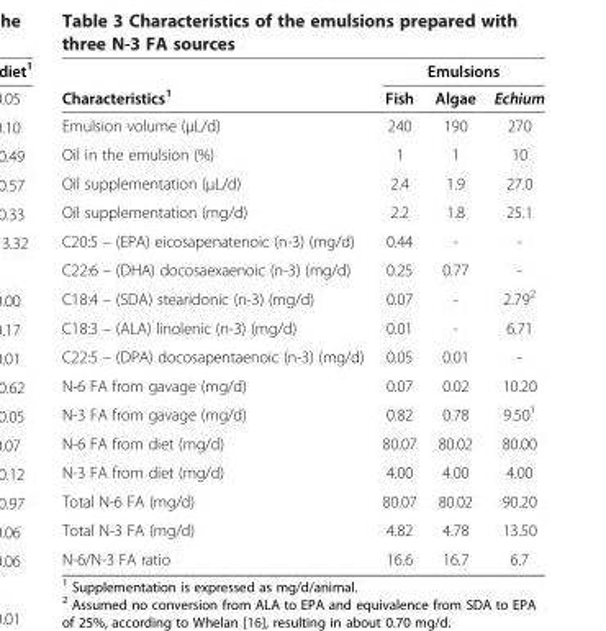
<table><thead><tr><td rowspan="2">Characteristics<sup>1</sup></td><td colspan="3">Emulsions</td></tr><tr><td>Fish</td><td>Algae</td><td>Echium</td></tr></thead><tbody><tr><td>Emulsion volume (μL/d)</td><td>240</td><td>190</td><td>270</td></tr><tr><td>Oil in the emulsion (%)</td><td>1</td><td>1</td><td>10</td></tr><tr><td>Oil supplementation (μL/d)</td><td>2.4</td><td>1.9</td><td>27.0</td></tr><tr><td>Oil supplementation (mg/d)</td><td>2.2</td><td>1.8</td><td>25.1</td></tr><tr><td>C20:5 – (EPA) eicosapenatenoic (n-3) (mg/d)</td><td>0.44</td><td>-</td><td>-</td></tr><tr><td>C22:6 – (DHA) docosaexaenoic (n-3) (mg/d)</td><td>0.25</td><td>0.77</td><td>-</td></tr><tr><td>C18:4 – (SDA) stearidonic (n-3) (mg/d)</td><td>0.07</td><td>-</td><td>2.79<sup>2</sup></td></tr><tr><td>C18:3 – (ALA) linolenic (n-3) (mg/d)</td><td>0.01</td><td>-</td><td>6.71</td></tr><tr><td>C22:5 – (DPA) docosapentaenoic (n-3) (mg/d)</td><td>0.05</td><td>0.01</td><td>-</td></tr><tr><td>N-6 FA from gavage (mg/d)</td><td>0.07</td><td>0.02</td><td>10.20</td></tr><tr><td>N-3 FA from gavage (mg/d)</td><td>0.82</td><td>0.78</td><td>9.50<sup>1</sup></td></tr><tr><td>N-6 FA from diet (mg/d)</td><td>80.07</td><td>80.02</td><td>80.00</td></tr><tr><td>N-3 FA from diet (mg/d)</td><td>4.00</td><td>4.00</td><td>4.00</td></tr><tr><td>Total N-6 FA (mg/d)</td><td>80.07</td><td>80.02</td><td>90.20</td></tr><tr><td>Total N-3 FA (mg/d)</td><td>4.82</td><td>4.78</td><td>13.50</td></tr><tr><td>N-6/N-3 FA ratio</td><td>16.6</td><td>16.7</td><td>6.7</td></tr></tbody></table>